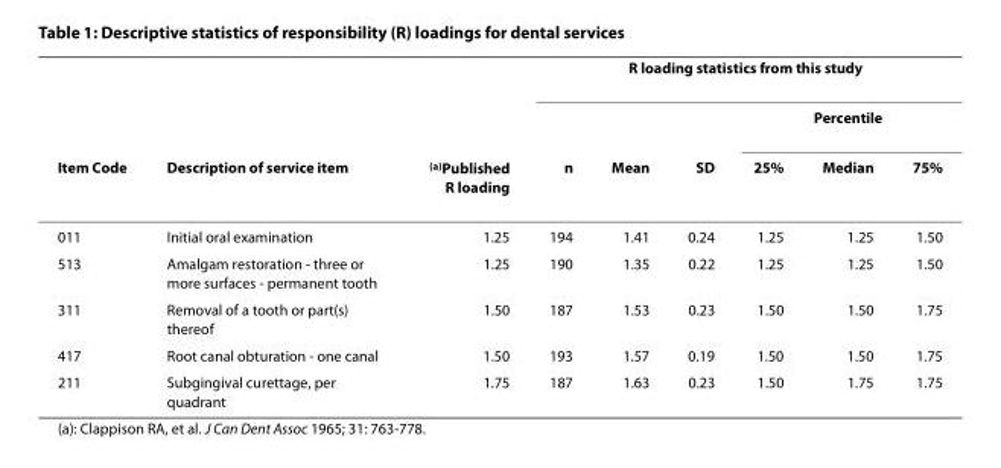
<table><thead><tr><td rowspan="3">Item Code</td><td rowspan="3">Description of service item</td><td rowspan="3"><sup>(a)</sup>Published R loading</td><td colspan="6">R loading statistics from this study</td></tr><tr><td rowspan="2">n</td><td rowspan="2">Mean</td><td rowspan="2">SD</td><td colspan="3">Percentile</td></tr><tr><td>25%</td><td>Median</td><td>75%</td></tr></thead><tbody><tr><td>011</td><td>Initial oral examination</td><td>1.25</td><td>194</td><td>1.41</td><td>0.24</td><td>1.25</td><td>1.25</td><td>1.50</td></tr><tr><td>513</td><td>Amalgam restoration - three or more surfaces - permanent tooth</td><td>1.25</td><td>190</td><td>1.35</td><td>0.22</td><td>1.25</td><td>1.25</td><td>1.50</td></tr><tr><td>311</td><td>Removal of a tooth or part(s) thereof</td><td>1.50</td><td>187</td><td>1.53</td><td>0.23</td><td>1.50</td><td>1.50</td><td>1.75</td></tr><tr><td>417</td><td>Root canal obturation - one canal</td><td>1.50</td><td>193</td><td>1.57</td><td>0.19</td><td>1.50</td><td>1.50</td><td>1.75</td></tr><tr><td>211</td><td>Subgingival curettage, per quadrant</td><td>1.75</td><td>187</td><td>1.63</td><td>0.23</td><td>1.50</td><td>1.75</td><td>1.75</td></tr></tbody></table>